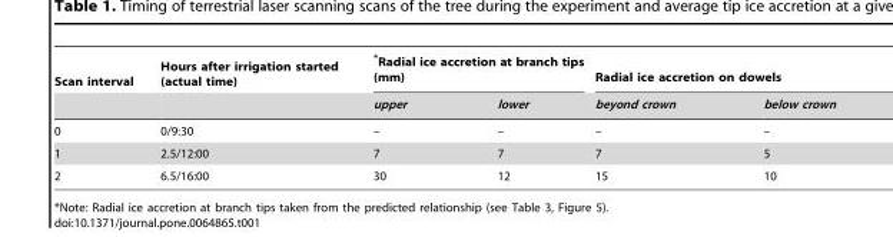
<table><thead><tr><td rowspan="2">Scan interval</td><td rowspan="2">Hours after irrigation started (actual time)</td><td colspan="2">*Radial ice accretion at branch tips (mm)</td><td colspan="2">Radial ice accretion on dowels</td></tr><tr><td>upper</td><td>lower</td><td>beyond crown</td><td>below crown</td></tr></thead><tbody><tr><td>0</td><td>0/9:30</td><td>–</td><td>–</td><td>–</td><td>–</td></tr><tr><td>1</td><td>2.5/12:00</td><td>7</td><td>7</td><td>7</td><td>5</td></tr><tr><td>2</td><td>6.5/16:00</td><td>30</td><td>12</td><td>15</td><td>10</td></tr></tbody></table>